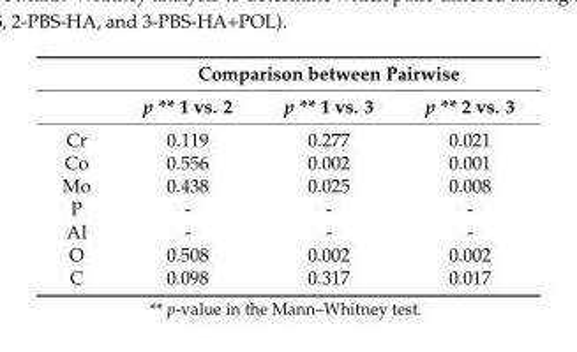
<table><thead><tr><td rowspan="2"></td><td colspan="3">Comparison between Pairwise</td></tr><tr><td>p ** 1 vs. 2</td><td>p ** 1 vs. 3</td><td>p ** 2 vs. 3</td></tr></thead><tbody><tr><td>Cr</td><td>0.119</td><td>0.277</td><td>0.021</td></tr><tr><td>Co</td><td>0.556</td><td>0.002</td><td>0.001</td></tr><tr><td>Mo</td><td>0.438</td><td>0.025</td><td>0.008</td></tr><tr><td>P</td><td>-</td><td>-</td><td>-</td></tr><tr><td>Al</td><td>-</td><td>-</td><td>-</td></tr><tr><td>O</td><td>0.508</td><td>0.002</td><td>0.002</td></tr><tr><td>C</td><td>0.098</td><td>0.317</td><td>0.017</td></tr></tbody></table>